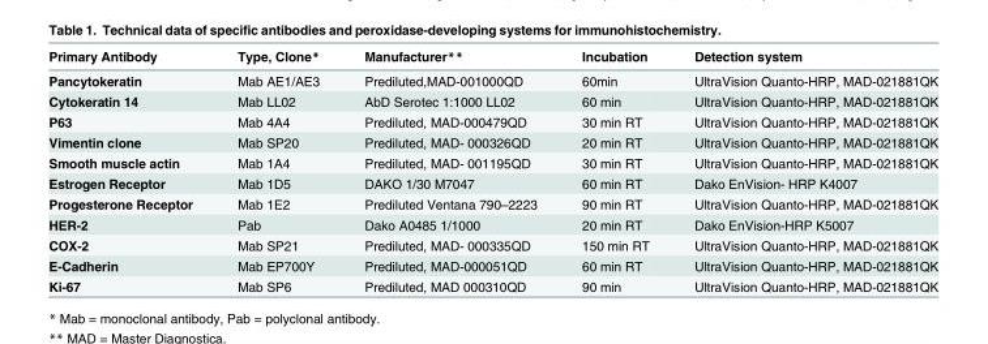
<table><thead><tr><td>Primary Antibody</td><td>Type, Clone*</td><td>Manufacturer**</td><td>Incubation</td><td>Detection system</td></tr></thead><tbody><tr><td>Pancytokeratin</td><td>Mab AE1/AE3</td><td>Prediluted,MAD-001000QD</td><td>60min</td><td>UltraVision Quanto-HRP, MAD-021881QK</td></tr><tr><td>Cytokeratin 14</td><td>Mab LL02</td><td>AbD Serotec 1:1000 LL02</td><td>60 min</td><td>UltraVision Quanto-HRP, MAD-021881QK</td></tr><tr><td>P63</td><td>Mab 4A4</td><td>Prediluted, MAD-000479QD</td><td>30 min RT</td><td>UltraVision Quanto-HRP, MAD-021881QK</td></tr><tr><td>Vimentin clone</td><td>Mab SP20</td><td>Prediluted, MAD- 000326QD</td><td>20 min RT</td><td>UltraVision Quanto-HRP, MAD-021881QK</td></tr><tr><td>Smooth muscle actin</td><td>Mab 1A4</td><td>Prediluted, MAD- 001195QD</td><td>30 min RT</td><td>UltraVision Quanto-HRP, MAD-021881QK</td></tr><tr><td>Estrogen Receptor</td><td>Mab 1D5</td><td>DAKO 1/30 M7047</td><td>60 min RT</td><td>Dako EnVision- HRP K4007</td></tr><tr><td>Progesterone Receptor</td><td>Mab 1E2</td><td>Prediluted Ventana 790–2223</td><td>90 min RT</td><td>UltraVision Quanto-HRP, MAD-021881QK</td></tr><tr><td>HER-2</td><td>Pab</td><td>Dako A0485 1/1000</td><td>20 min RT</td><td>Dako EnVision-HRP K5007</td></tr><tr><td>COX-2</td><td>Mab SP21</td><td>Prediluted, MAD- 000335QD</td><td>150 min RT</td><td>UltraVision Quanto-HRP, MAD-021881QK</td></tr><tr><td>E-Cadherin</td><td>Mab EP700Y</td><td>Prediluted, MAD-000051QD</td><td>60 min RT</td><td>UltraVision Quanto-HRP, MAD-021881QK</td></tr><tr><td>Ki-67</td><td>Mab SP6</td><td>Prediluted, MAD 000310QD</td><td>90 min</td><td>UltraVision Quanto-HRP, MAD-021881QK</td></tr></tbody></table>